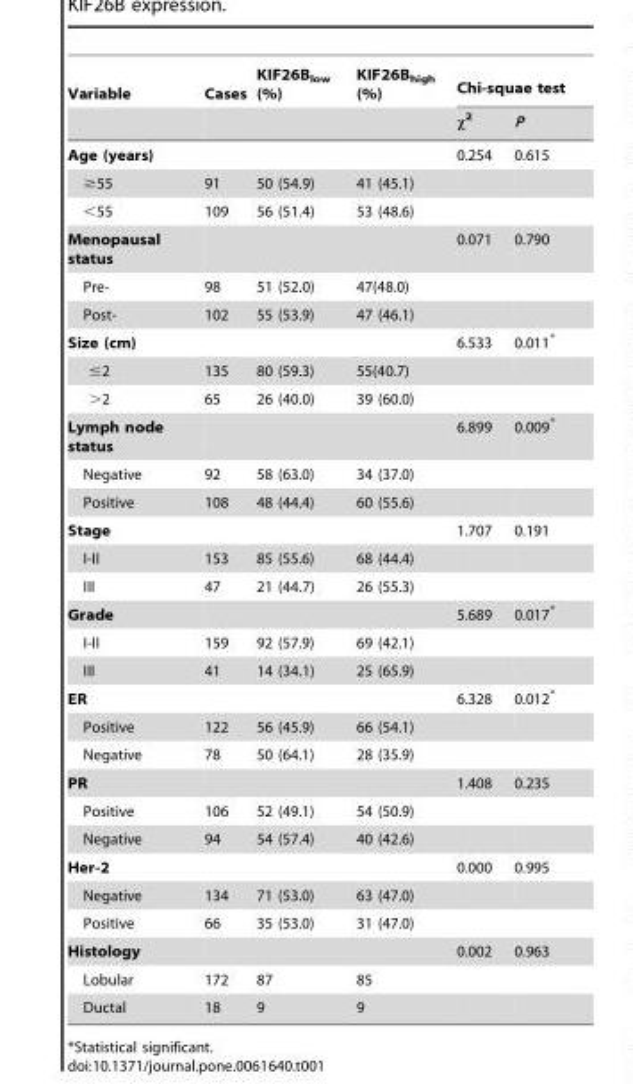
<table><thead><tr><td rowspan="2">Variable</td><td rowspan="2">Cases</td><td rowspan="2">KIF26B<sub>low</sub> (%)</td><td rowspan="2">KIF26B<sub>high</sub> (%)</td><td colspan="2">Chi-squae test</td></tr><tr><td>χ<sup>2</sup></td><td>P</td></tr></thead><tbody><tr><td>Age (years)</td><td></td><td></td><td></td><td>0.254</td><td>0.615</td></tr><tr><td>≥55</td><td>91</td><td>50 (54.9)</td><td>41 (45.1)</td><td></td><td></td></tr><tr><td>&lt;55</td><td>109</td><td>56 (51.4)</td><td>53 (48.6)</td><td></td><td></td></tr><tr><td>Menopausal status</td><td></td><td></td><td></td><td>0.071</td><td>0.790</td></tr><tr><td>Pre-</td><td>98</td><td>51 (52.0)</td><td>47(48.0)</td><td></td><td></td></tr><tr><td>Post-</td><td>102</td><td>55 (53.9)</td><td>47 (46.1)</td><td></td><td></td></tr><tr><td>Size (cm)</td><td></td><td></td><td></td><td>6.533</td><td>0.011*</td></tr><tr><td>≤2</td><td>135</td><td>80 (59.3)</td><td>55(40.7)</td><td></td><td></td></tr><tr><td>&gt;2</td><td>65</td><td>26 (40.0)</td><td>39 (60.0)</td><td></td><td></td></tr><tr><td>Lymph node status</td><td></td><td></td><td></td><td>6.899</td><td>0.009*</td></tr><tr><td>Negative</td><td>92</td><td>58 (63.0)</td><td>34 (37.0)</td><td></td><td></td></tr><tr><td>Positive</td><td>108</td><td>48 (44.4)</td><td>60 (55.6)</td><td></td><td></td></tr><tr><td>Stage</td><td></td><td></td><td></td><td>1.707</td><td>0.191</td></tr><tr><td>I-II</td><td>153</td><td>85 (55.6)</td><td>68 (44.4)</td><td></td><td></td></tr><tr><td>III</td><td>47</td><td>21 (44.7)</td><td>26 (55.3)</td><td></td><td></td></tr><tr><td>Grade</td><td></td><td></td><td></td><td>5.689</td><td>0.017*</td></tr><tr><td>I-II</td><td>159</td><td>92 (57.9)</td><td>69 (42.1)</td><td></td><td></td></tr><tr><td>III</td><td>41</td><td>14 (34.1)</td><td>25 (65.9)</td><td></td><td></td></tr><tr><td>ER</td><td></td><td></td><td></td><td>6.328</td><td>0.012*</td></tr><tr><td>Positive</td><td>122</td><td>56 (45.9)</td><td>66 (54.1)</td><td></td><td></td></tr><tr><td>Negative</td><td>78</td><td>50 (64.1)</td><td>28 (35.9)</td><td></td><td></td></tr><tr><td>PR</td><td></td><td></td><td></td><td>1.408</td><td>0.235</td></tr><tr><td>Positive</td><td>106</td><td>52 (49.1)</td><td>54 (50.9)</td><td></td><td></td></tr><tr><td>Negative</td><td>94</td><td>54 (57.4)</td><td>40 (42.6)</td><td></td><td></td></tr><tr><td>Her-2</td><td></td><td></td><td></td><td>0.000</td><td>0.995</td></tr><tr><td>Negative</td><td>134</td><td>71 (53.0)</td><td>63 (47.0)</td><td></td><td></td></tr><tr><td>Positive</td><td>66</td><td>35 (53.0)</td><td>31 (47.0)</td><td></td><td></td></tr><tr><td>Histology</td><td></td><td></td><td></td><td>0.002</td><td>0.963</td></tr><tr><td>Lobular</td><td>172</td><td>87</td><td>85</td><td></td><td></td></tr><tr><td>Ductal</td><td>18</td><td>9</td><td>9</td><td></td><td></td></tr></tbody></table>